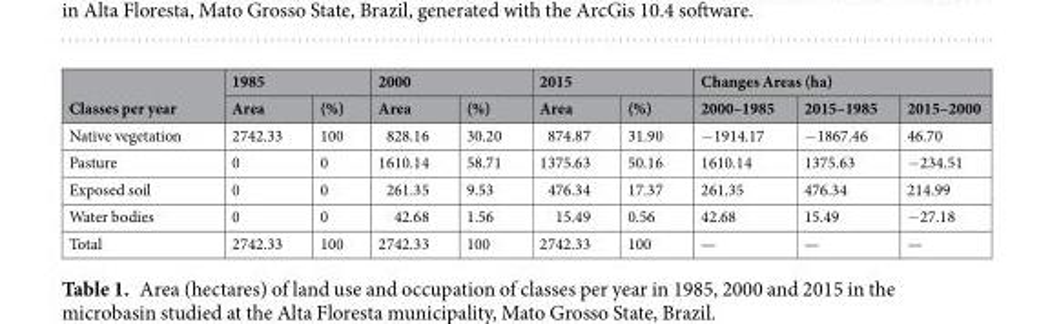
<table><thead><tr><td rowspan="2">Classes per year</td><td colspan="2">1985</td><td colspan="2">2000</td><td colspan="2">2015</td><td colspan="3">Changes Areas (ha)</td></tr><tr><td>Area</td><td>(%)</td><td>Area</td><td>(%)</td><td>Area</td><td>(%)</td><td>2000–1985</td><td>2015–1985</td><td>2015–2000</td></tr></thead><tbody><tr><td>Native vegetation</td><td>2742.33</td><td>100</td><td>828.16</td><td>30.20</td><td>874.87</td><td>31.90</td><td>−1914.17</td><td>−1867.46</td><td>46.70</td></tr><tr><td>Pasture</td><td>0</td><td>0</td><td>1610.14</td><td>58.71</td><td>1375.63</td><td>50.16</td><td>1610.14</td><td>1375.63</td><td>−234.51</td></tr><tr><td>Exposed soil</td><td>0</td><td>0</td><td>261.35</td><td>9.53</td><td>476.34</td><td>17.37</td><td>261.35</td><td>476.34</td><td>214.99</td></tr><tr><td>Water bodies</td><td>0</td><td>0</td><td>42.68</td><td>1.56</td><td>15.49</td><td>0.56</td><td>42.68</td><td>15.49</td><td>−27.18</td></tr><tr><td>Total</td><td>2742.33</td><td>100</td><td>2742.33</td><td>100</td><td>2742.33</td><td>100</td><td>—</td><td>—</td><td>—</td></tr></tbody></table>